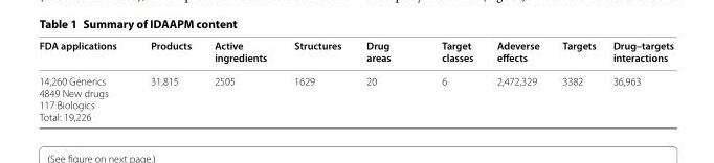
<table><thead><tr><td>FDA applications</td><td>Products</td><td>Active ingredients</td><td>Structures</td><td>Drug areas</td><td>Target classes</td><td>Adeverse effects</td><td>Targets</td><td>Drug–targets interactions</td></tr></thead><tbody><tr><td>14,260 Generics 4849 New drugs 117 Biologics Total: 19,226</td><td>31,815</td><td>2505</td><td>1629</td><td>20</td><td>6</td><td>2,472,329</td><td>3382</td><td>36,963</td></tr></tbody></table>